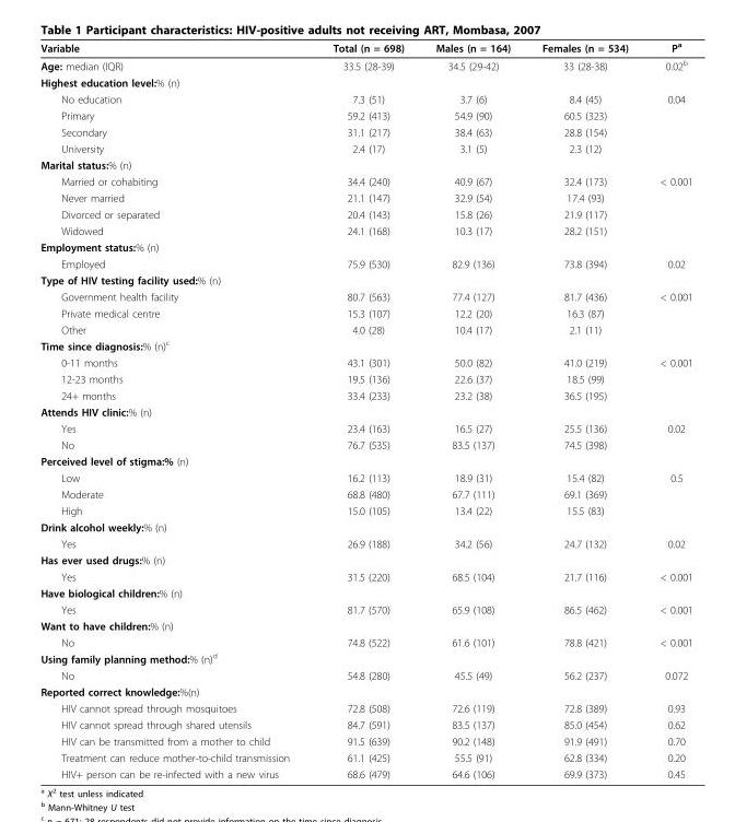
<table><thead><tr><td>Variable</td><td>Total (n = 698)</td><td>Males (n = 164)</td><td>Females (n = 534)</td><td>P<sup>a</sup></td></tr></thead><tbody><tr><td>Age: median (IQR)</td><td>33.5 (28-39)</td><td>34.5 (29-42)</td><td>33 (28-38)</td><td>0.02<sup>b</sup></td></tr><tr><td colspan="5">Highest education level:% (n)</td></tr><tr><td>No education</td><td>7.3 (51)</td><td>3.7 (6)</td><td>8.4 (45)</td><td>0.04</td></tr><tr><td>Primary</td><td>59.2 (413)</td><td>54.9 (90)</td><td>60.5 (323)</td><td></td></tr><tr><td>Secondary</td><td>31.1 (217)</td><td>38.4 (63)</td><td>28.8 (154)</td><td></td></tr><tr><td>University</td><td>2.4 (17)</td><td>3.1 (5)</td><td>2.3 (12)</td><td></td></tr><tr><td colspan="5">Marital status:% (n)</td></tr><tr><td>Married or cohabiting</td><td>34.4 (240)</td><td>40.9 (67)</td><td>32.4 (173)</td><td>&lt; 0.001</td></tr><tr><td>Never married</td><td>21.1 (147)</td><td>32.9 (54)</td><td>17.4 (93)</td><td></td></tr><tr><td>Divorced or separated</td><td>20.4 (143)</td><td>15.8 (26)</td><td>21.9 (117)</td><td></td></tr><tr><td>Widowed</td><td>24.1 (168)</td><td>10.3 (17)</td><td>28.2 (151)</td><td></td></tr><tr><td colspan="5">Employment status:% (n)</td></tr><tr><td>Employed</td><td>75.9 (530)</td><td>82.9 (136)</td><td>73.8 (394)</td><td>0.02</td></tr><tr><td colspan="5">Type of HIV testing facility used:% (n)</td></tr><tr><td>Government health facility</td><td>80.7 (563)</td><td>77.4 (127)</td><td>81.7 (436)</td><td>&lt; 0.001</td></tr><tr><td>Private medical centre</td><td>15.3 (107)</td><td>12.2 (20)</td><td>16.3 (87)</td><td></td></tr><tr><td>Other</td><td>4.0 (28)</td><td>10.4 (17)</td><td>2.1 (11)</td><td></td></tr><tr><td colspan="5">Time since diagnosis:% (n)<sup>c</sup></td></tr><tr><td>0-11 months</td><td>43.1 (301)</td><td>50.0 (82)</td><td>41.0 (219)</td><td>&lt; 0.001</td></tr><tr><td>12-23 months</td><td>19.5 (136)</td><td>22.6 (37)</td><td>18.5 (99)</td><td></td></tr><tr><td>24+ months</td><td>33.4 (233)</td><td>23.2 (38)</td><td>36.5 (195)</td><td></td></tr><tr><td colspan="5">Attends HIV clinic:% (n)</td></tr><tr><td>Yes</td><td>23.4 (163)</td><td>16.5 (27)</td><td>25.5 (136)</td><td>0.02</td></tr><tr><td>No</td><td>76.7 (535)</td><td>83.5 (137)</td><td>74.5 (398)</td><td></td></tr><tr><td colspan="5">Perceived level of stigma:% (n)</td></tr><tr><td>Low</td><td>16.2 (113)</td><td>18.9 (31)</td><td>15.4 (82)</td><td>0.5</td></tr><tr><td>Moderate</td><td>68.8 (480)</td><td>67.7 (111)</td><td>69.1 (369)</td><td></td></tr><tr><td>High</td><td>15.0 (105)</td><td>13.4 (22)</td><td>15.5 (83)</td><td></td></tr><tr><td colspan="5">Drink alcohol weekly:% (n)</td></tr><tr><td>Yes</td><td>26.9 (188)</td><td>34.2 (56)</td><td>24.7 (132)</td><td>0.02</td></tr><tr><td colspan="5">Has ever used drugs:% (n)</td></tr><tr><td>Yes</td><td>31.5 (220)</td><td>68.5 (104)</td><td>21.7 (116)</td><td>&lt; 0.001</td></tr><tr><td colspan="5">Have biological children:% (n)</td></tr><tr><td>Yes</td><td>81.7 (570)</td><td>65.9 (108)</td><td>86.5 (462)</td><td>&lt; 0.001</td></tr><tr><td colspan="5">Want to have children:% (n)</td></tr><tr><td>No</td><td>74.8 (522)</td><td>61.6 (101)</td><td>78.8 (421)</td><td>&lt; 0.001</td></tr><tr><td colspan="5">Using family planning method:% (n)<sup>d</sup></td></tr><tr><td>No</td><td>54.8 (280)</td><td>45.5 (49)</td><td>56.2 (237)</td><td>0.072</td></tr><tr><td colspan="5">Reported correct knowledge:%(n)</td></tr><tr><td>HIV cannot spread through mosquitoes</td><td>72.8 (508)</td><td>72.6 (119)</td><td>72.8 (389)</td><td>0.93</td></tr><tr><td>HIV cannot spread through shared utensils</td><td>84.7 (591)</td><td>83.5 (137)</td><td>85.0 (454)</td><td>0.62</td></tr><tr><td>HIV can be transmitted from a mother to child</td><td>91.5 (639)</td><td>90.2 (148)</td><td>91.9 (491)</td><td>0.70</td></tr><tr><td>Treatment can reduce mother-to-child transmission</td><td>61.1 (425)</td><td>55.5 (91)</td><td>62.8 (334)</td><td>0.20</td></tr><tr><td>HIV+ person can be re-infected with a new virus</td><td>68.6 (479)</td><td>64.6 (106)</td><td>69.9 (373)</td><td>0.45</td></tr></tbody></table>